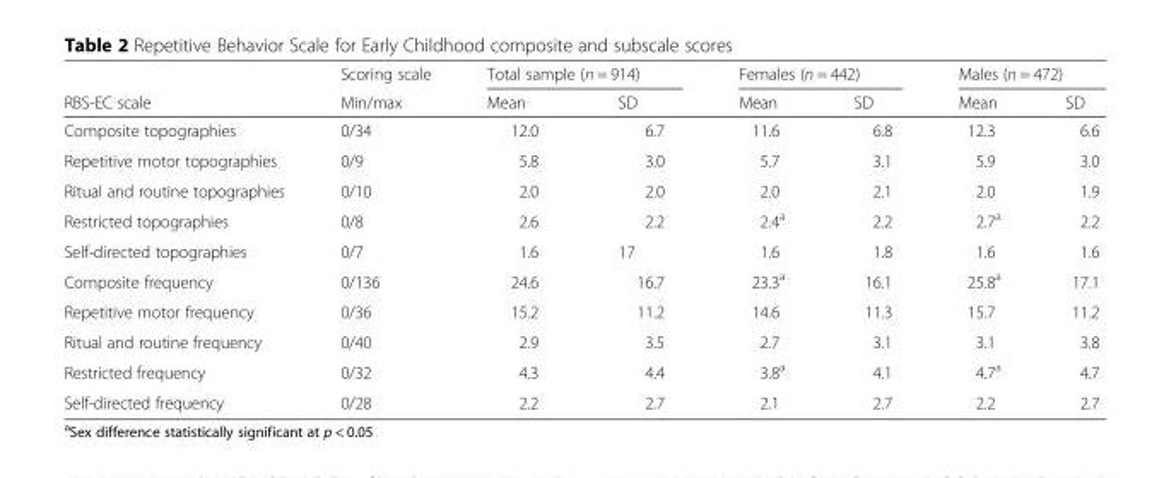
<table><thead><tr><td rowspan="2">RBS-EC scale</td><td rowspan="2">Scoring scale Min/max</td><td colspan="2">Total sample (n = 914)</td><td colspan="2">Females (n = 442)</td><td colspan="2">Males (n = 472)</td></tr><tr><td>Mean</td><td>SD</td><td>Mean</td><td>SD</td><td>Mean</td><td>SD</td></tr></thead><tbody><tr><td>Composite topographies</td><td>0/34</td><td>12.0</td><td>6.7</td><td>11.6</td><td>6.8</td><td>12.3</td><td>6.6</td></tr><tr><td>Repetitive motor topographies</td><td>0/9</td><td>5.8</td><td>3.0</td><td>5.7</td><td>3.1</td><td>5.9</td><td>3.0</td></tr><tr><td>Ritual and routine topographies</td><td>0/10</td><td>2.0</td><td>2.0</td><td>2.0</td><td>2.1</td><td>2.0</td><td>1.9</td></tr><tr><td>Restricted topographies</td><td>0/8</td><td>2.6</td><td>2.2</td><td>2.4<sup>a</sup></td><td>2.2</td><td>2.7<sup>a</sup></td><td>2.2</td></tr><tr><td>Self-directed topographies</td><td>0/7</td><td>1.6</td><td>17</td><td>1.6</td><td>1.8</td><td>1.6</td><td>1.6</td></tr><tr><td>Composite frequency</td><td>0/136</td><td>24.6</td><td>16.7</td><td>23.3<sup>a</sup></td><td>16.1</td><td>25.8<sup>a</sup></td><td>17.1</td></tr><tr><td>Repetitive motor frequency</td><td>0/36</td><td>15.2</td><td>11.2</td><td>14.6</td><td>11.3</td><td>15.7</td><td>11.2</td></tr><tr><td>Ritual and routine frequency</td><td>0/40</td><td>2.9</td><td>3.5</td><td>2.7</td><td>3.1</td><td>3.1</td><td>3.8</td></tr><tr><td>Restricted frequency</td><td>0/32</td><td>4.3</td><td>4.4</td><td>3.8<sup>a</sup></td><td>4.1</td><td>4.7<sup>a</sup></td><td>4.7</td></tr><tr><td>Self-directed frequency</td><td>0/28</td><td>2.2</td><td>2.7</td><td>2.1</td><td>2.7</td><td>2.2</td><td>2.7</td></tr></tbody></table>